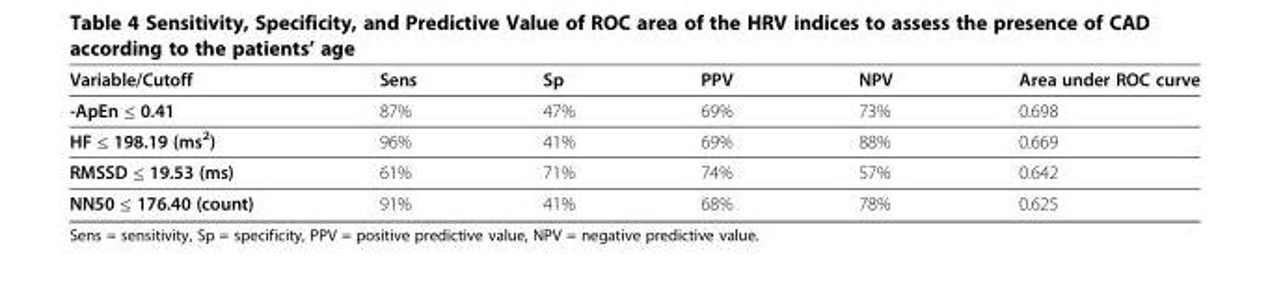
<table><thead><tr><td>Variable/Cutoff</td><td>Sens</td><td>Sp</td><td>PPV</td><td>NPV</td><td>Area under ROC curve</td></tr></thead><tbody><tr><td>-ApEn ≤ 0.41</td><td>87%</td><td>47%</td><td>69%</td><td>73%</td><td>0.698</td></tr><tr><td>HF ≤ 198.19 (ms<sup>2</sup>)</td><td>96%</td><td>41%</td><td>69%</td><td>88%</td><td>0.669</td></tr><tr><td>RMSSD ≤ 19.53 (ms)</td><td>61%</td><td>71%</td><td>74%</td><td>57%</td><td>0.642</td></tr><tr><td>NN50 ≤ 176.40 (count)</td><td>91%</td><td>41%</td><td>68%</td><td>78%</td><td>0.625</td></tr></tbody></table>